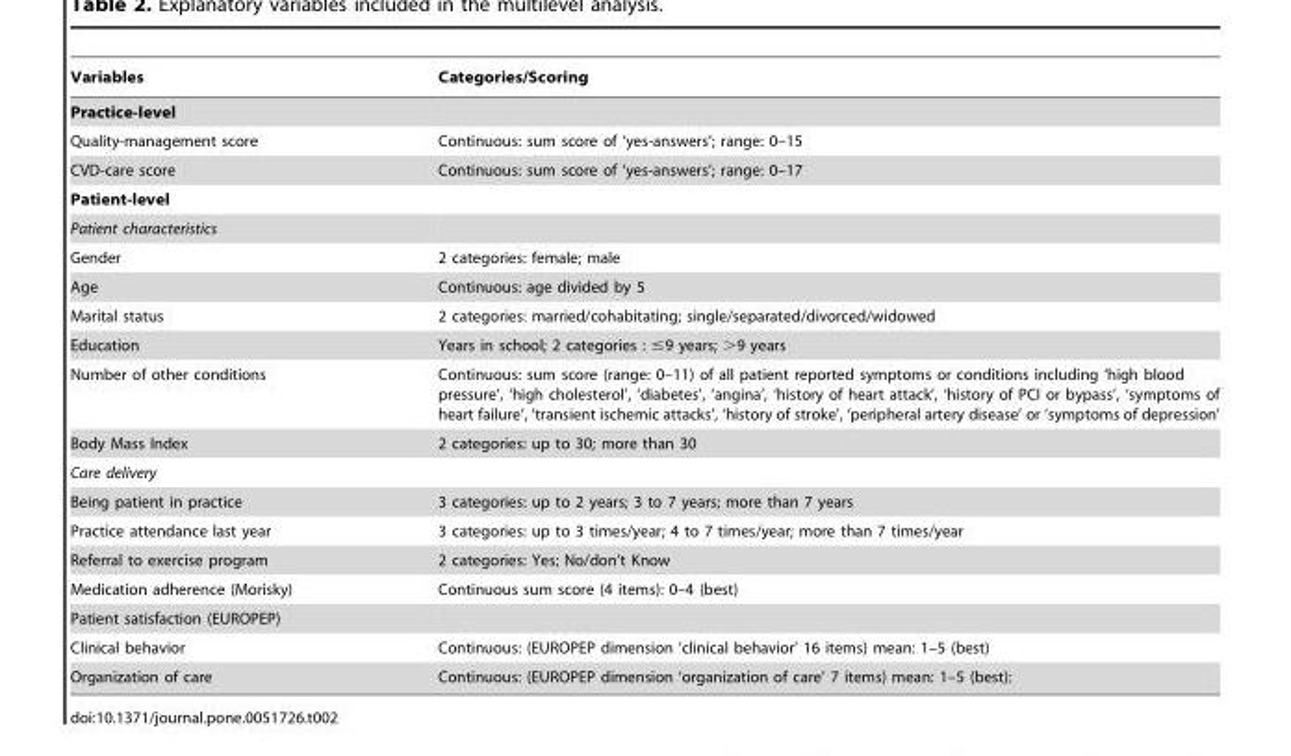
<table><thead><tr><td>Variables</td><td>Categories/Scoring</td></tr></thead><tbody><tr><td colspan="2">Practice-level</td></tr><tr><td>Quality-management score</td><td>Continuous: sum score of ‘yes-answers’; range: 0–15</td></tr><tr><td>CVD-care score</td><td>Continuous: sum score of ‘yes-answers’; range: 0–17</td></tr><tr><td colspan="2">Patient-level</td></tr><tr><td colspan="2">Patient characteristics</td></tr><tr><td>Gender</td><td>2 categories: female; male</td></tr><tr><td>Age</td><td>Continuous: age divided by 5</td></tr><tr><td>Marital status</td><td>2 categories: married/cohabitating; single/separated/divorced/widowed</td></tr><tr><td>Education</td><td>Years in school; 2 categories : ≤9 years; &gt;9 years</td></tr><tr><td>Number of other conditions</td><td>Continuous: sum score (range: 0–11) of all patient reported symptoms or conditions including ‘high blood pressure’, ‘high cholesterol’, ‘diabetes’, ‘angina’, ‘history of heart attack’, ‘history of PCI or bypass’, ‘symptoms of heart failure’, ‘transient ischemic attacks’, ‘history of stroke’, ‘peripheral artery disease’ or ‘symptoms of depression’</td></tr><tr><td>Body Mass Index</td><td>2 categories: up to 30; more than 30</td></tr><tr><td colspan="2">Care delivery</td></tr><tr><td>Being patient in practice</td><td>3 categories: up to 2 years; 3 to 7 years; more than 7 years</td></tr><tr><td>Practice attendance last year</td><td>3 categories: up to 3 times/year; 4 to 7 times/year; more than 7 times/year</td></tr><tr><td>Referral to exercise program</td><td>2 categories: Yes; No/don’t Know</td></tr><tr><td>Medication adherence (Morisky)</td><td>Continuous sum score (4 items): 0–4 (best)</td></tr><tr><td colspan="2">Patient satisfaction (EUROPEP)</td></tr><tr><td>Clinical behavior</td><td>Continuous: (EUROPEP dimension ‘clinical behavior’ 16 items) mean: 1–5 (best)</td></tr><tr><td>Organization of care</td><td>Continuous: (EUROPEP dimension ‘organization of care’ 7 items) mean: 1–5 (best):</td></tr></tbody></table>